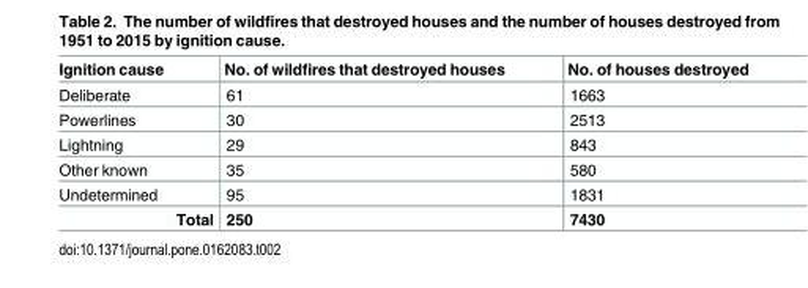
<table><thead><tr><td>Ignition cause</td><td>No. of wildfires that destroyed houses</td><td>No. of houses destroyed</td></tr></thead><tbody><tr><td>Deliberate</td><td>61</td><td>1663</td></tr><tr><td>Powerlines</td><td>30</td><td>2513</td></tr><tr><td>Lightning</td><td>29</td><td>843</td></tr><tr><td>Other known</td><td>35</td><td>580</td></tr><tr><td>Undetermined</td><td>95</td><td>1831</td></tr><tr><td>Total</td><td>250</td><td>7430</td></tr></tbody></table>